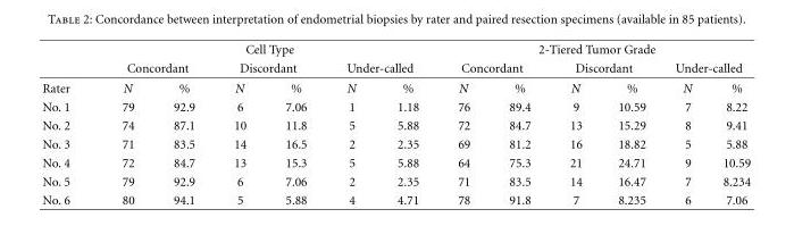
<table><thead><tr><td rowspan="3">Rater</td><td colspan="6">Cell Type</td><td colspan="6">2-Tiered Tumor Grade</td></tr><tr><td colspan="2">Concordant</td><td colspan="2">Discordant</td><td colspan="2">Under-called</td><td colspan="2">Concordant</td><td colspan="2">Discordant</td><td colspan="2">Under-called</td></tr><tr><td>N</td><td>%</td><td>N</td><td>%</td><td>N</td><td>%</td><td>N</td><td>%</td><td>N</td><td>%</td><td>N</td><td>%</td></tr></thead><tbody><tr><td>No. 1</td><td>79</td><td>92.9</td><td>6</td><td>7.06</td><td>1</td><td>1.18</td><td>76</td><td>89.4</td><td>9</td><td>10.59</td><td>7</td><td>8.22</td></tr><tr><td>No. 2</td><td>74</td><td>87.1</td><td>10</td><td>11.8</td><td>5</td><td>5.88</td><td>72</td><td>84.7</td><td>13</td><td>15.29</td><td>8</td><td>9.41</td></tr><tr><td>No. 3</td><td>71</td><td>83.5</td><td>14</td><td>16.5</td><td>2</td><td>2.35</td><td>69</td><td>81.2</td><td>16</td><td>18.82</td><td>5</td><td>5.88</td></tr><tr><td>No. 4</td><td>72</td><td>84.7</td><td>13</td><td>15.3</td><td>5</td><td>5.88</td><td>64</td><td>75.3</td><td>21</td><td>24.71</td><td>9</td><td>10.59</td></tr><tr><td>No. 5</td><td>79</td><td>92.9</td><td>6</td><td>7.06</td><td>2</td><td>2.35</td><td>71</td><td>83.5</td><td>14</td><td>16.47</td><td>7</td><td>8.234</td></tr><tr><td>No. 6</td><td>80</td><td>94.1</td><td>5</td><td>5.88</td><td>4</td><td>4.71</td><td>78</td><td>91.8</td><td>7</td><td>8.235</td><td>6</td><td>7.06</td></tr></tbody></table>